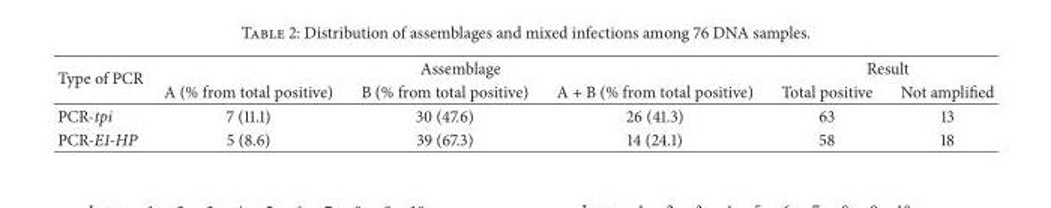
<table><thead><tr><td rowspan="2">Type of PCR</td><td colspan="3">Assemblage</td><td colspan="2">Result</td></tr><tr><td>A (% from total positive)</td><td>B (% from total positive)</td><td>A + B (% from total positive)</td><td>Total positive</td><td>Not amplified</td></tr></thead><tbody><tr><td>PCR-tpi</td><td>7 (11.1)</td><td>30 (47.6)</td><td>26 (41.3)</td><td>63</td><td>13</td></tr><tr><td>PCR-E1-HP</td><td>5 (8.6)</td><td>39 (67.3)</td><td>14 (24.1)</td><td>58</td><td>18</td></tr></tbody></table>